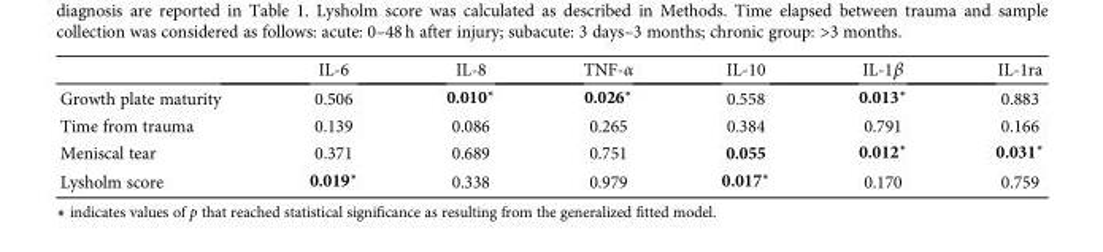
<table><thead><tr><td></td><td>IL-6</td><td>IL-8</td><td>TNF-α</td><td>IL-10</td><td>IL-1β</td><td>IL-1ra</td></tr></thead><tbody><tr><td>Growth plate maturity</td><td>0.506</td><td>0.010∗</td><td>0.026∗</td><td>0.558</td><td>0.013∗</td><td>0.883</td></tr><tr><td>Time from trauma</td><td>0.139</td><td>0.086</td><td>0.265</td><td>0.384</td><td>0.791</td><td>0.166</td></tr><tr><td>Meniscal tear</td><td>0.371</td><td>0.689</td><td>0.751</td><td>0.055</td><td>0.012∗</td><td>0.031∗</td></tr><tr><td>Lysholm score</td><td>0.019∗</td><td>0.338</td><td>0.979</td><td>0.017∗</td><td>0.170</td><td>0.759</td></tr></tbody></table>